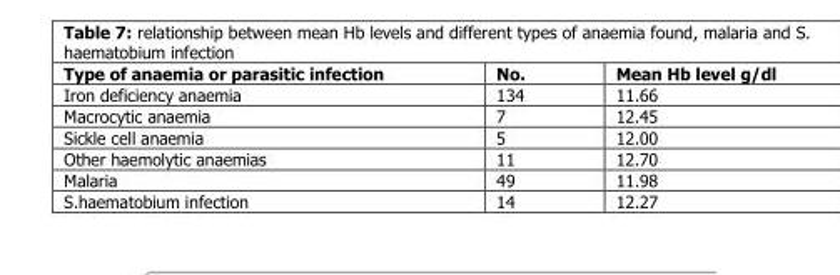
<table><thead><tr><td>Type of anaemia or parasitic infection</td><td>No.</td><td>Mean Hb level g/dl</td></tr></thead><tbody><tr><td>Iron deficiency anaemia</td><td>134</td><td>11.66</td></tr><tr><td>Macrocytic anaemia</td><td>7</td><td>12.45</td></tr><tr><td>Sickle cell anaemia</td><td>5</td><td>12.00</td></tr><tr><td>Other haemolytic anaemias</td><td>11</td><td>12.70</td></tr><tr><td>Malaria</td><td>49</td><td>11.98</td></tr><tr><td>S.haematobium infection</td><td>14</td><td>12.27</td></tr></tbody></table>